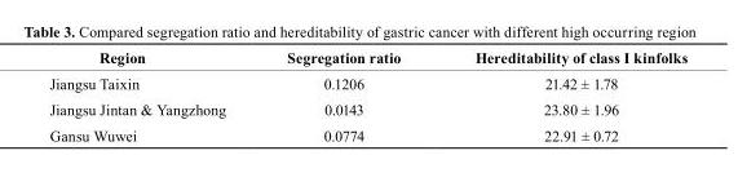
<table><thead><tr><td>region</td><td>segregation ratio</td><td>Hereditability of class I kinfolks</td></tr></thead><tbody><tr><td>Jiangsu Taixin</td><td>0.1206</td><td>21.42 ± 1.78</td></tr><tr><td>Jiangsu Jintan &amp; Yangzhong</td><td>0.0143</td><td>23.80 ± 1.96</td></tr><tr><td>Gansu Wuwei</td><td>0.0774</td><td>22.91 ± 0.72</td></tr></tbody></table>